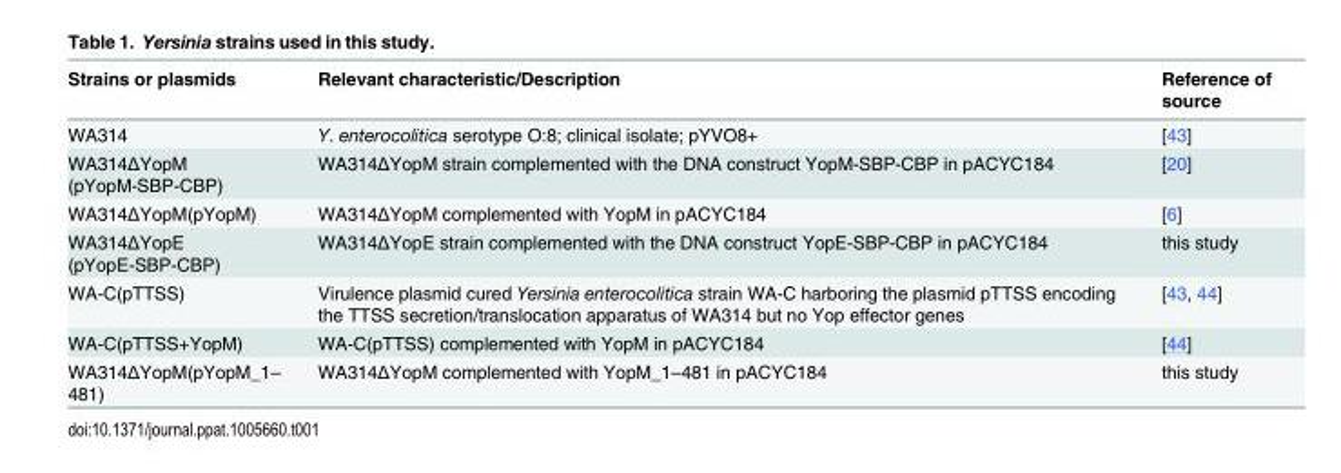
<table><thead><tr><td>Strains or plasmids</td><td>Relevant characteristic/Description</td><td>Reference of source</td></tr></thead><tbody><tr><td>WA314</td><td>Y. enterocolitica serotype O:8; clinical isolate; pYVO8+</td><td>[43]</td></tr><tr><td>WA314ΔYopM (pYopM-SBP-CBP)</td><td>WA314ΔYopM strain complemented with the DNA construct YopM-SBP-CBP in pACYC184</td><td>[20]</td></tr><tr><td>WA314ΔYopM(pYopM)</td><td>WA314ΔYopM complemented with YopM in pACYC184</td><td>[6]</td></tr><tr><td>WA314ΔYopE (pYopE-SBP-CBP)</td><td>WA314ΔYopE strain complemented with the DNA construct YopE-SBP-CBP in pACYC184</td><td>this study</td></tr><tr><td>WA-C(pTTSS)</td><td>Virulence plasmid cured Yersinia enterocolitica strain WA-C harboring the plasmid pTTSS encoding the TTSS secretion/translocation apparatus of WA314 but no Yop effector genes</td><td>[43, 44]</td></tr><tr><td>WA-C(pTTSS+YopM)</td><td>WA-C(pTTSS) complemented with YopM in pACYC184</td><td>[44]</td></tr><tr><td>WA314ΔYopM(pYopM_1– 481)</td><td>WA314ΔYopM complemented with YopM_1–481 in pACYC184</td><td>this study</td></tr></tbody></table>